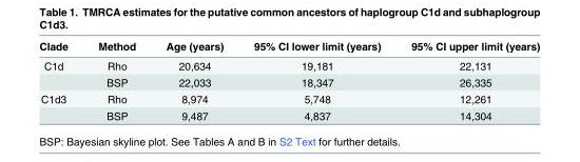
<table><thead><tr><td>Clade</td><td>Method</td><td>Age (years)</td><td>95% CI lower limit (years)</td><td>95% CI upper limit (years)</td></tr></thead><tbody><tr><td rowspan="2">C1d</td><td>Rho</td><td>20,634</td><td>19,181</td><td>22,131</td></tr><tr><td>BSP</td><td>22,033</td><td>18,347</td><td>26,335</td></tr><tr><td rowspan="2">C1d3</td><td>Rho</td><td>8,974</td><td>5,748</td><td>12,261</td></tr><tr><td>BSP</td><td>9,487</td><td>4,837</td><td>14,304</td></tr></tbody></table>